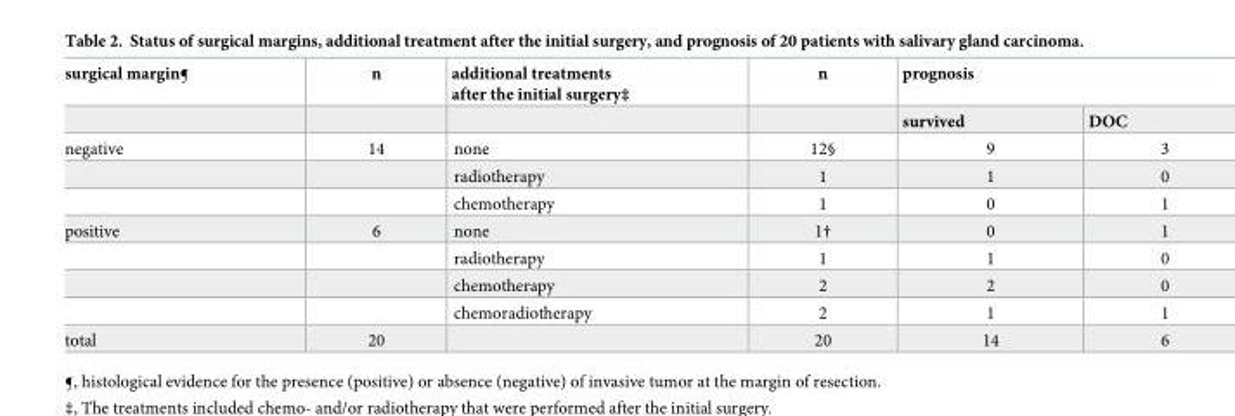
<table><thead><tr><td rowspan="2">surgical margin¶</td><td rowspan="2">n</td><td rowspan="2">additional treatments after the initial surgery‡</td><td rowspan="2">n</td><td colspan="2">prognosis</td></tr><tr><td>survived</td><td>DOC</td></tr></thead><tbody><tr><td rowspan="3">negative</td><td>14</td><td>none</td><td>12§</td><td>9</td><td>3</td></tr><tr><td></td><td>radiotherapy</td><td>1</td><td>1</td><td>0</td></tr><tr><td></td><td>chemotherapy</td><td>1</td><td>0</td><td>1</td></tr><tr><td rowspan="4">positive</td><td>6</td><td>none</td><td>1†</td><td>0</td><td>1</td></tr><tr><td></td><td>radiotherapy</td><td>1</td><td>1</td><td>0</td></tr><tr><td></td><td>chemotherapy</td><td>2</td><td>2</td><td>0</td></tr><tr><td></td><td>chemoradiotherapy</td><td>2</td><td>1</td><td>1</td></tr><tr><td>total</td><td>20</td><td></td><td>20</td><td>14</td><td>6</td></tr></tbody></table>